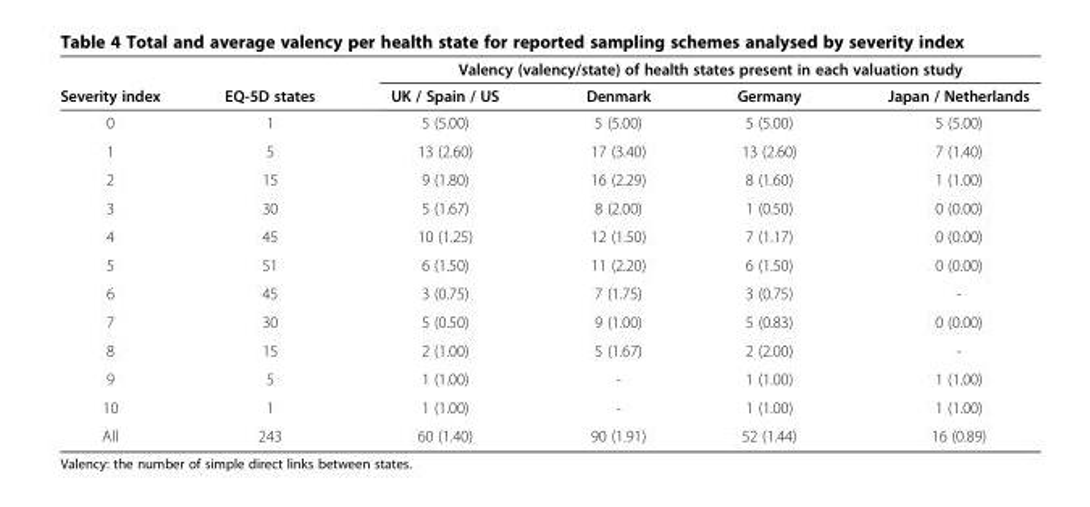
<table><thead><tr><td rowspan="2">Severity index</td><td rowspan="2">EQ-5D states</td><td colspan="4">Valency (valency/state) of health states present in each valuation study</td></tr><tr><td>UK / Spain / US</td><td>Denmark</td><td>Germany</td><td>Japan / Netherlands</td></tr></thead><tbody><tr><td>0</td><td>1</td><td>5 (5.00)</td><td>5 (5.00)</td><td>5 (5.00)</td><td>5 (5.00)</td></tr><tr><td>1</td><td>5</td><td>13 (2.60)</td><td>17 (3.40)</td><td>13 (2.60)</td><td>7 (1.40)</td></tr><tr><td>2</td><td>15</td><td>9 (1.80)</td><td>16 (2.29)</td><td>8 (1.60)</td><td>1 (1.00)</td></tr><tr><td>3</td><td>30</td><td>5 (1.67)</td><td>8 (2.00)</td><td>1 (0.50)</td><td>0 (0.00)</td></tr><tr><td>4</td><td>45</td><td>10 (1.25)</td><td>12 (1.50)</td><td>7 (1.17)</td><td>0 (0.00)</td></tr><tr><td>5</td><td>51</td><td>6 (1.50)</td><td>11 (2.20)</td><td>6 (1.50)</td><td>0 (0.00)</td></tr><tr><td>6</td><td>45</td><td>3 (0.75)</td><td>7 (1.75)</td><td>3 (0.75)</td><td>-</td></tr><tr><td>7</td><td>30</td><td>5 (0.50)</td><td>9 (1.00)</td><td>5 (0.83)</td><td>0 (0.00)</td></tr><tr><td>8</td><td>15</td><td>2 (1.00)</td><td>5 (1.67)</td><td>2 (2.00)</td><td>-</td></tr><tr><td>9</td><td>5</td><td>1 (1.00)</td><td>-</td><td>1 (1.00)</td><td>1 (1.00)</td></tr><tr><td>10</td><td>1</td><td>1 (1.00)</td><td>-</td><td>1 (1.00)</td><td>1 (1.00)</td></tr><tr><td>All</td><td>243</td><td>60 (1.40)</td><td>90 (1.91)</td><td>52 (1.44)</td><td>16 (0.89)</td></tr></tbody></table>